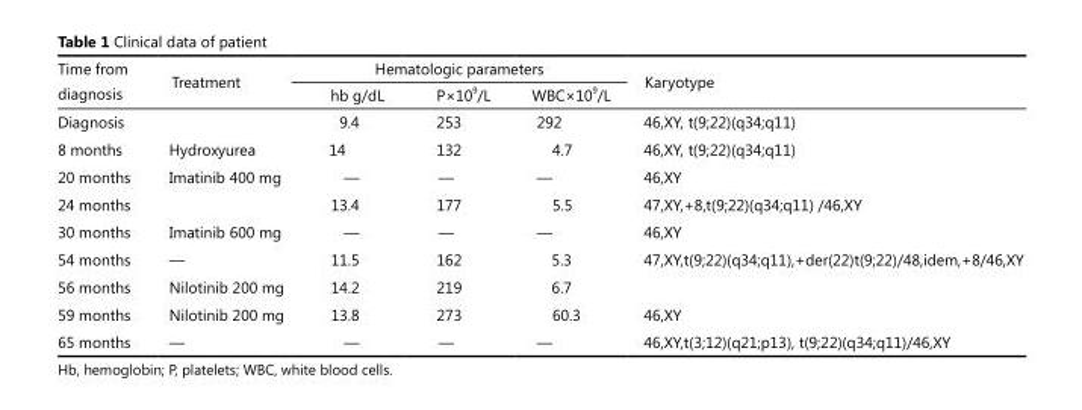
<table><thead><tr><td rowspan="2">Time from diagnosis</td><td rowspan="2">Treatment</td><td colspan="3">Hematologic parameters</td><td rowspan="2">Karyotype</td></tr><tr><td>hb g/dL</td><td>P×10 <sup>9</sup>/L</td><td>WBC×10 <sup>9</sup>/L</td></tr></thead><tbody><tr><td>Diagnosis</td><td></td><td>9.4</td><td>253</td><td>292</td><td>46,XY, t(9;22)(q34;q11)</td></tr><tr><td>8 months</td><td>Hydroxyurea</td><td>14</td><td>132</td><td>4.7</td><td>46,XY, t(9;22)(q34;q11)</td></tr><tr><td>20 months</td><td>Imatinib 400 mg</td><td>—</td><td>—</td><td>—</td><td>46,XY</td></tr><tr><td>24 months</td><td></td><td>13.4</td><td>177</td><td>5.5</td><td>47,XY,+8,t(9;22)(q34;q11) /46,XY</td></tr><tr><td>30 months</td><td>Imatinib 600 mg</td><td>—</td><td>—</td><td>—</td><td>46,XY</td></tr><tr><td>54 months</td><td>—</td><td>11.5</td><td>162</td><td>5.3</td><td>47,XY,t(9;22)(q34;q11),+der(22)t(9;22)/48,idem,+8/46,XY</td></tr><tr><td>56 months</td><td>Nilotinib 200 mg</td><td>14.2</td><td>219</td><td>6.7</td><td></td></tr><tr><td>59 months</td><td>Nilotinib 200 mg</td><td>13.8</td><td>273</td><td>60.3</td><td>46,XY</td></tr><tr><td>65 months</td><td>—</td><td>—</td><td>—</td><td>—</td><td>46,XY,t(3;12)(q21;p13), t(9;22)(q34;q11)/46,XY</td></tr></tbody></table>